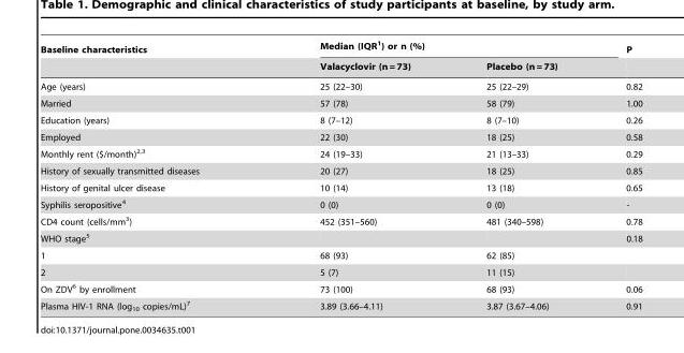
<table><thead><tr><td rowspan="2">Baseline characteristics</td><td colspan="2">Median (IQR<sup>1</sup>) or n (%)</td><td rowspan="2">P</td></tr><tr><td>Valacyclovir (n = 73)</td><td>Placebo (n = 73)</td></tr></thead><tbody><tr><td>Age (years)</td><td>25 (22–30)</td><td>25 (22–29)</td><td>0.82</td></tr><tr><td>Married</td><td>57 (78)</td><td>58 (79)</td><td>1.00</td></tr><tr><td>Education (years)</td><td>8 (7–12)</td><td>8 (7–10)</td><td>0.26</td></tr><tr><td>Employed</td><td>22 (30)</td><td>18 (25)</td><td>0.58</td></tr><tr><td>Monthly rent ($/month)<sup>2,3</sup></td><td>24 (19–33)</td><td>21 (13–33)</td><td>0.29</td></tr><tr><td>History of sexually transmitted diseases</td><td>20 (27)</td><td>18 (25)</td><td>0.85</td></tr><tr><td>History of genital ulcer disease</td><td>10 (14)</td><td>13 (18)</td><td>0.65</td></tr><tr><td>Syphilis seropositive<sup>4</sup></td><td>0 (0)</td><td>0 (0)</td><td>-</td></tr><tr><td>CD4 count (cells/mm<sup>3</sup>)</td><td>452 (351–560)</td><td>481 (340–598)</td><td>0.78</td></tr><tr><td>WHO stage<sup>5</sup></td><td></td><td></td><td>0.18</td></tr><tr><td>1</td><td>68 (93)</td><td>62 (85)</td><td></td></tr><tr><td>2</td><td>5 (7)</td><td>11 (15)</td><td></td></tr><tr><td>On ZDV<sup>6</sup> by enrollment</td><td>73 (100)</td><td>68 (93)</td><td>0.06</td></tr><tr><td>Plasma HIV-1 RNA (log<sub>10</sub> copies/mL)<sup>7</sup></td><td>3.89 (3.66–4.11)</td><td>3.87 (3.67–4.06)</td><td>0.91</td></tr></tbody></table>